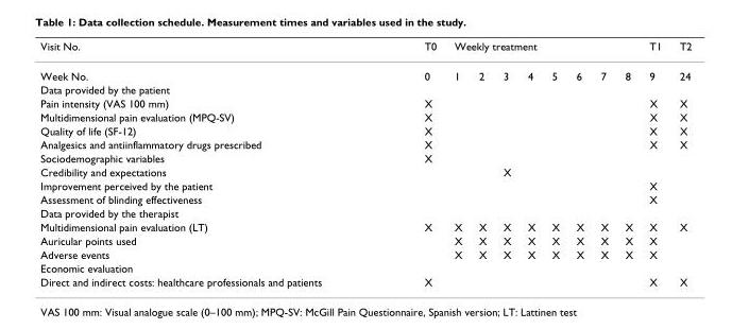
<table><thead><tr><td rowspan="2">Visit No. Week No.</td><td rowspan="2">T0 0</td><td colspan="8">Weekly treatment</td><td rowspan="2">T1 9</td><td rowspan="2">T2 24</td></tr><tr><td>1</td><td>2</td><td>3</td><td>4</td><td>5</td><td>6</td><td>7</td><td>8</td></tr></thead><tbody><tr><td colspan="12">Data provided by the patient</td></tr><tr><td>Pain intensity (VAS 100 mm)</td><td>X</td><td></td><td></td><td></td><td></td><td></td><td></td><td></td><td></td><td>X</td><td>X</td></tr><tr><td>Multidimensional pain evaluation (MPQ-SV)</td><td>X</td><td></td><td></td><td></td><td></td><td></td><td></td><td></td><td></td><td>X</td><td>X</td></tr><tr><td>Quality of life (SF-12)</td><td>X</td><td></td><td></td><td></td><td></td><td></td><td></td><td></td><td></td><td>X</td><td>X</td></tr><tr><td>Analgesics and antiinflammatory drugs prescribed</td><td>X</td><td></td><td></td><td></td><td></td><td></td><td></td><td></td><td></td><td>X</td><td>X</td></tr><tr><td>Sociodemographic variables</td><td>X</td><td></td><td></td><td></td><td></td><td></td><td></td><td></td><td></td><td></td><td></td></tr><tr><td>Credibility and expectations</td><td></td><td></td><td></td><td>X</td><td></td><td></td><td></td><td></td><td></td><td></td><td></td></tr><tr><td>Improvement perceived by the patient</td><td></td><td></td><td></td><td></td><td></td><td></td><td></td><td></td><td></td><td>X</td><td></td></tr><tr><td>Assessment of blinding effectiveness</td><td></td><td></td><td></td><td></td><td></td><td></td><td></td><td></td><td></td><td>X</td><td></td></tr><tr><td colspan="12">Data provided by the therapist</td></tr><tr><td>Multidimensional pain evaluation (LT)</td><td>X</td><td>X</td><td>X</td><td>X</td><td>X</td><td>X</td><td>X</td><td>X</td><td>X</td><td>X</td><td>X</td></tr><tr><td>Auricular points used</td><td></td><td>X</td><td>X</td><td>X</td><td>X</td><td>X</td><td>X</td><td>X</td><td>X</td><td>X</td><td></td></tr><tr><td>Adverse events</td><td></td><td>X</td><td>X</td><td>X</td><td>X</td><td>X</td><td>X</td><td>X</td><td>X</td><td>X</td><td></td></tr><tr><td colspan="12">Economic evaluation</td></tr><tr><td>Direct and indirect costs: healthcare professionals and patients</td><td>X</td><td></td><td></td><td></td><td></td><td></td><td></td><td></td><td></td><td>X</td><td>X</td></tr></tbody></table>